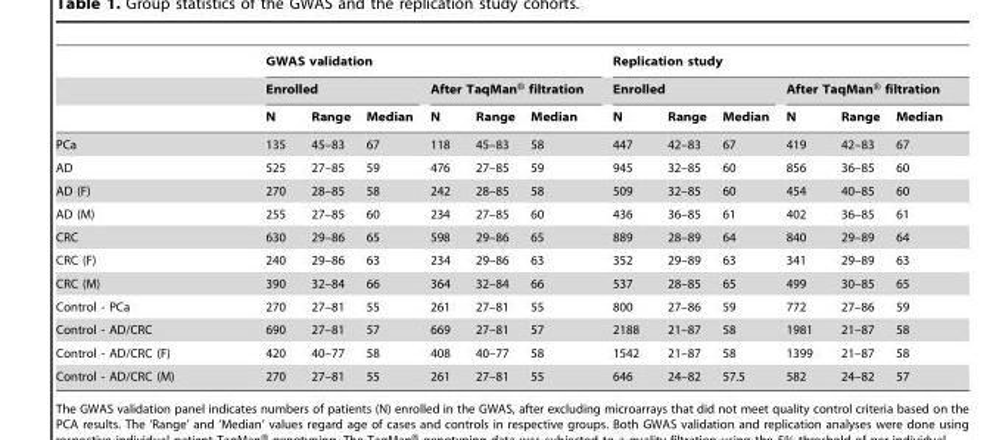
<table><thead><tr><td rowspan="3"></td><td colspan="6">GWAS validation</td><td colspan="6">Replication study</td></tr><tr><td colspan="3">Enrolled</td><td colspan="3">After TaqMan® filtration</td><td colspan="3">Enrolled</td><td colspan="3">After TaqMan® filtration</td></tr><tr><td>N</td><td>Range</td><td>Median</td><td>N</td><td>Range</td><td>Median</td><td>N</td><td>Range</td><td>Median</td><td>N</td><td>Range</td><td>Median</td></tr></thead><tbody><tr><td>PCa</td><td>135</td><td>45–83</td><td>67</td><td>118</td><td>45–83</td><td>58</td><td>447</td><td>42–83</td><td>67</td><td>419</td><td>42–83</td><td>67</td></tr><tr><td>AD</td><td>525</td><td>27–85</td><td>59</td><td>476</td><td>27–85</td><td>59</td><td>945</td><td>32–85</td><td>60</td><td>856</td><td>36–85</td><td>60</td></tr><tr><td>AD (F)</td><td>270</td><td>28–85</td><td>58</td><td>242</td><td>28–85</td><td>58</td><td>509</td><td>32–85</td><td>60</td><td>454</td><td>40–85</td><td>60</td></tr><tr><td>AD (M)</td><td>255</td><td>27–85</td><td>60</td><td>234</td><td>27–85</td><td>60</td><td>436</td><td>36–85</td><td>61</td><td>402</td><td>36–85</td><td>61</td></tr><tr><td>CRC</td><td>630</td><td>29–86</td><td>65</td><td>598</td><td>29–86</td><td>65</td><td>889</td><td>28–89</td><td>64</td><td>840</td><td>29–89</td><td>64</td></tr><tr><td>CRC (F)</td><td>240</td><td>29–86</td><td>63</td><td>234</td><td>29–86</td><td>63</td><td>352</td><td>29–89</td><td>63</td><td>341</td><td>29–89</td><td>63</td></tr><tr><td>CRC (M)</td><td>390</td><td>32–84</td><td>66</td><td>364</td><td>32–84</td><td>66</td><td>537</td><td>28–85</td><td>65</td><td>499</td><td>30–85</td><td>65</td></tr><tr><td>Control - PCa</td><td>270</td><td>27–81</td><td>55</td><td>261</td><td>27–81</td><td>55</td><td>800</td><td>27–86</td><td>59</td><td>772</td><td>27–86</td><td>59</td></tr><tr><td>Control - AD/CRC</td><td>690</td><td>27–81</td><td>57</td><td>669</td><td>27–81</td><td>57</td><td>2188</td><td>21–87</td><td>58</td><td>1981</td><td>21–87</td><td>58</td></tr><tr><td>Control - AD/CRC (F)</td><td>420</td><td>40–77</td><td>58</td><td>408</td><td>40–77</td><td>58</td><td>1542</td><td>21–87</td><td>58</td><td>1399</td><td>21–87</td><td>58</td></tr><tr><td>Control - AD/CRC (M)</td><td>270</td><td>27–81</td><td>55</td><td>261</td><td>27–81</td><td>55</td><td>646</td><td>24–82</td><td>57.5</td><td>582</td><td>24–82</td><td>57</td></tr></tbody></table>